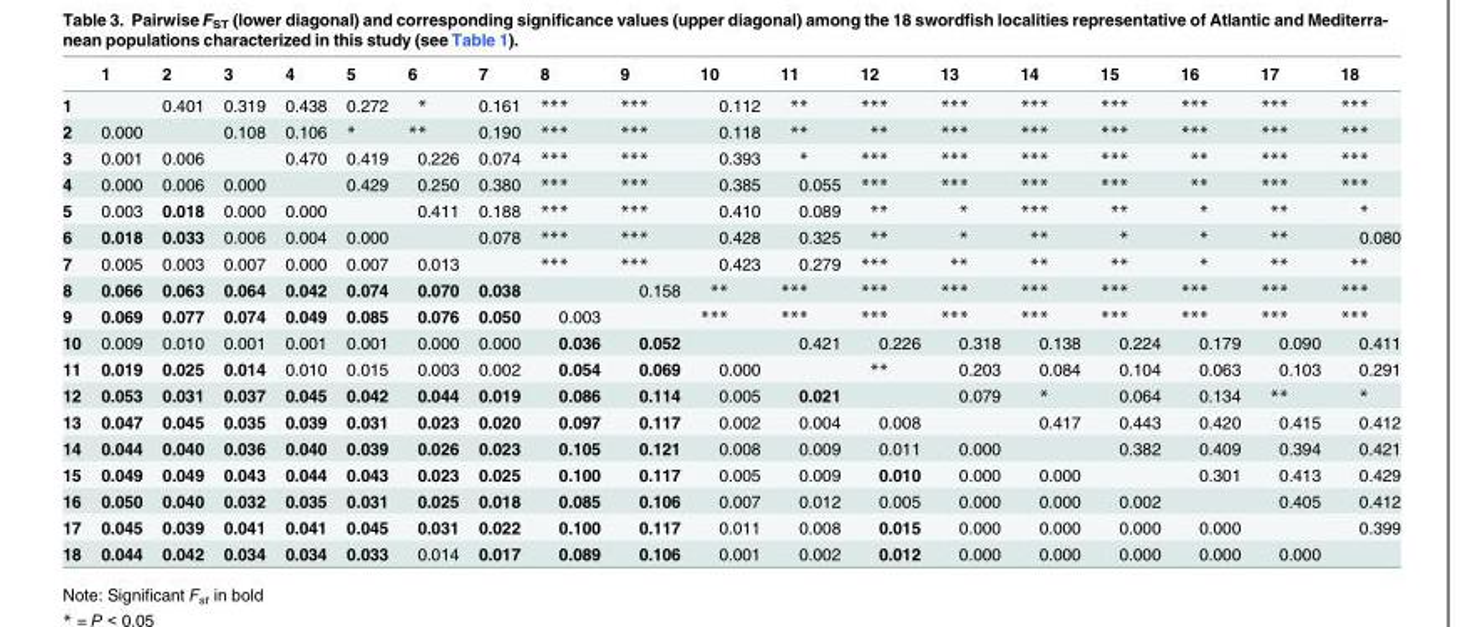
<table><thead><tr><td></td><td>1</td><td>2</td><td>3</td><td>4</td><td>5</td><td>6</td><td>7</td><td>8</td><td>9</td><td>10</td><td>11</td><td>12</td><td>13</td><td>14</td><td>15</td><td>16</td><td>17</td><td>18</td></tr></thead><tbody><tr><td>1</td><td></td><td>0.401</td><td>0.319</td><td>0.438</td><td>0.272</td><td>*</td><td>0.161</td><td>***</td><td>***</td><td>0.112</td><td>**</td><td>***</td><td>***</td><td>***</td><td>***</td><td>***</td><td>***</td><td>***</td></tr><tr><td>2</td><td>0.000</td><td></td><td>0.108</td><td>0.106</td><td>*</td><td>**</td><td>0.190</td><td>***</td><td>***</td><td>0.118</td><td>**</td><td>**</td><td>***</td><td>***</td><td>***</td><td>***</td><td>***</td><td>***</td></tr><tr><td>3</td><td>0.001</td><td>0.006</td><td></td><td>0.470</td><td>0.419</td><td>0.226</td><td>0.074</td><td>***</td><td>***</td><td>0.393</td><td>*</td><td>***</td><td>***</td><td>***</td><td>***</td><td>**</td><td>***</td><td>***</td></tr><tr><td>4</td><td>0.000</td><td>0.006</td><td>0.000</td><td></td><td>0.429</td><td>0.250</td><td>0.380</td><td>***</td><td>***</td><td>0.385</td><td>0.055</td><td>***</td><td>***</td><td>***</td><td>***</td><td>**</td><td>***</td><td>***</td></tr><tr><td>5</td><td>0.003</td><td>0.018</td><td>0.000</td><td>0.000</td><td></td><td>0.411</td><td>0.188</td><td>***</td><td>***</td><td>0.410</td><td>0.089</td><td>**</td><td>*</td><td>***</td><td>**</td><td>*</td><td>**</td><td>*</td></tr><tr><td>6</td><td>0.018</td><td>0.033</td><td>0.006</td><td>0.004</td><td>0.000</td><td></td><td>0.078</td><td>***</td><td>***</td><td>0.428</td><td>0.325</td><td>**</td><td>*</td><td>**</td><td>*</td><td>*</td><td>**</td><td>0.080</td></tr><tr><td>7</td><td>0.005</td><td>0.003</td><td>0.007</td><td>0.000</td><td>0.007</td><td>0.013</td><td></td><td>***</td><td>***</td><td>0.423</td><td>0.279</td><td>***</td><td>**</td><td>**</td><td>**</td><td>*</td><td>**</td><td>**</td></tr><tr><td>8</td><td>0.066</td><td>0.063</td><td>0.064</td><td>0.042</td><td>0.074</td><td>0.070</td><td>0.038</td><td></td><td>0.158</td><td>**</td><td>***</td><td>***</td><td>***</td><td>***</td><td>***</td><td>***</td><td>***</td><td>***</td></tr><tr><td>9</td><td>0.069</td><td>0.077</td><td>0.074</td><td>0.049</td><td>0.085</td><td>0.076</td><td>0.050</td><td>0.003</td><td></td><td>***</td><td>***</td><td>***</td><td>***</td><td>***</td><td>***</td><td>***</td><td>***</td><td>***</td></tr><tr><td>10</td><td>0.009</td><td>0.010</td><td>0.001</td><td>0.001</td><td>0.001</td><td>0.000</td><td>0.000</td><td>0.036</td><td>0.052</td><td></td><td>0.421</td><td>0.226</td><td>0.318</td><td>0.138</td><td>0.224</td><td>0.179</td><td>0.090</td><td>0.411</td></tr><tr><td>11</td><td>0.019</td><td>0.025</td><td>0.014</td><td>0.010</td><td>0.015</td><td>0.003</td><td>0.002</td><td>0.054</td><td>0.069</td><td>0.000</td><td></td><td>**</td><td>0.203</td><td>0.084</td><td>0.104</td><td>0.063</td><td>0.103</td><td>0.291</td></tr><tr><td>12</td><td>0.053</td><td>0.031</td><td>0.037</td><td>0.045</td><td>0.042</td><td>0.044</td><td>0.019</td><td>0.086</td><td>0.114</td><td>0.005</td><td>0.021</td><td></td><td>0.079</td><td>*</td><td>0.064</td><td>0.134</td><td>**</td><td>*</td></tr><tr><td>13</td><td>0.047</td><td>0.045</td><td>0.035</td><td>0.039</td><td>0.031</td><td>0.023</td><td>0.020</td><td>0.097</td><td>0.117</td><td>0.002</td><td>0.004</td><td>0.008</td><td></td><td>0.417</td><td>0.443</td><td>0.420</td><td>0.415</td><td>0.412</td></tr><tr><td>14</td><td>0.044</td><td>0.040</td><td>0.036</td><td>0.040</td><td>0.039</td><td>0.026</td><td>0.023</td><td>0.105</td><td>0.121</td><td>0.008</td><td>0.009</td><td>0.011</td><td>0.000</td><td></td><td>0.382</td><td>0.409</td><td>0.394</td><td>0.421</td></tr><tr><td>15</td><td>0.049</td><td>0.049</td><td>0.043</td><td>0.044</td><td>0.043</td><td>0.023</td><td>0.025</td><td>0.100</td><td>0.117</td><td>0.005</td><td>0.009</td><td>0.010</td><td>0.000</td><td>0.000</td><td></td><td>0.301</td><td>0.413</td><td>0.429</td></tr><tr><td>16</td><td>0.050</td><td>0.040</td><td>0.032</td><td>0.035</td><td>0.031</td><td>0.025</td><td>0.018</td><td>0.085</td><td>0.106</td><td>0.007</td><td>0.012</td><td>0.005</td><td>0.000</td><td>0.000</td><td>0.002</td><td></td><td>0.405</td><td>0.412</td></tr><tr><td>17</td><td>0.045</td><td>0.039</td><td>0.041</td><td>0.041</td><td>0.045</td><td>0.031</td><td>0.022</td><td>0.100</td><td>0.117</td><td>0.011</td><td>0.008</td><td>0.015</td><td>0.000</td><td>0.000</td><td>0.000</td><td>0.000</td><td></td><td>0.399</td></tr><tr><td>18</td><td>0.044</td><td>0.042</td><td>0.034</td><td>0.034</td><td>0.033</td><td>0.014</td><td>0.017</td><td>0.089</td><td>0.106</td><td>0.001</td><td>0.002</td><td>0.012</td><td>0.000</td><td>0.000</td><td>0.000</td><td>0.000</td><td>0.000</td><td></td></tr></tbody></table>